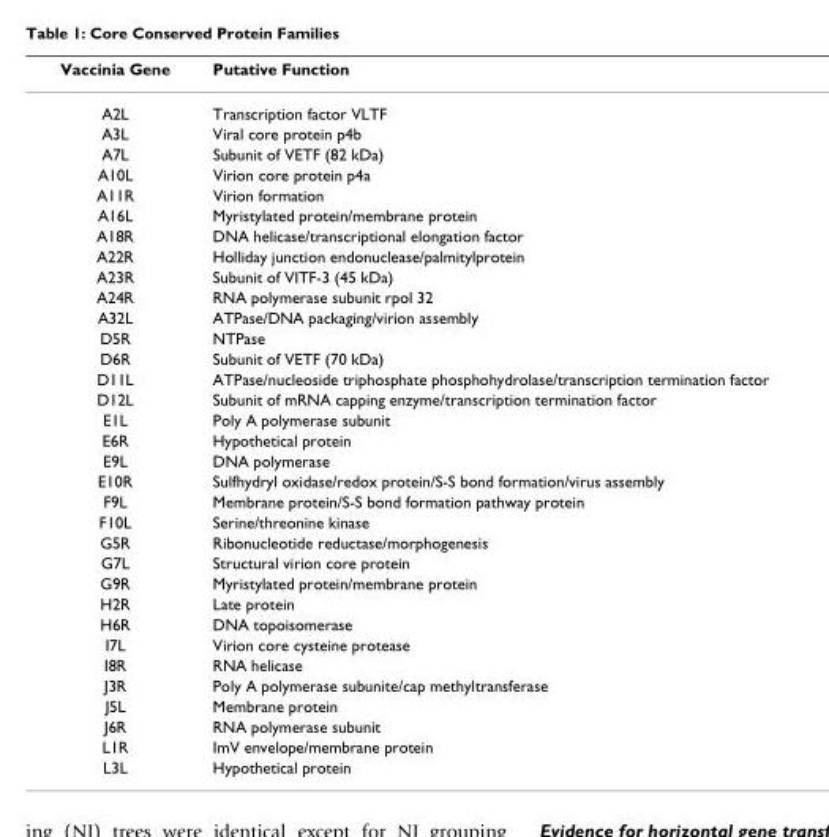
<table><thead><tr><td>Vaccinia Gene</td><td>Putative Function</td></tr></thead><tbody><tr><td>A2L</td><td>Transcription factor VLTF</td></tr><tr><td>A3L</td><td>Viral core protein p4b</td></tr><tr><td>A7L</td><td>Subunit of VETF (82 kDa)</td></tr><tr><td>A10L</td><td>Virion core protein p4a</td></tr><tr><td>A11R</td><td>Virion formation</td></tr><tr><td>A16L</td><td>Myristylated protein/membrane protein</td></tr><tr><td>A18R</td><td>DNA helicase/transcriptional elongation factor</td></tr><tr><td>A22R</td><td>Holliday junction endonuclease/palmitylprotein</td></tr><tr><td>A23R</td><td>Subunit of VITF-3 (45 kDa)</td></tr><tr><td>A24R</td><td>RNA polymerase subunit rpol 32</td></tr><tr><td>A32L</td><td>ATPase/DNA packaging/virion assembly</td></tr><tr><td>D5R</td><td>NTPase</td></tr><tr><td>D6R</td><td>Subunit of VETF (70 kDa)</td></tr><tr><td>D11L</td><td>ATPase/nucleoside triphosphate phosphohydrolase/transcription termination factor</td></tr><tr><td>D12L</td><td>Subunit of mRNA capping enzyme/transcription termination factor</td></tr><tr><td>E1L</td><td>Poly A polymerase subunit</td></tr><tr><td>E6R</td><td>Hypothetical protein</td></tr><tr><td>E9L</td><td>DNA polymerase</td></tr><tr><td>E10R</td><td>Sulfhydryl oxidase/redox protein/S-S bond formation/virus assembly</td></tr><tr><td>F9L</td><td>Membrane protein/S-S bond formation pathway protein</td></tr><tr><td>F10L</td><td>Serine/threonine kinase</td></tr><tr><td>G5R</td><td>Ribonucleotide reductase/morphogenesis</td></tr><tr><td>G7L</td><td>Structural virion core protein</td></tr><tr><td>G9R</td><td>Myristylated protein/membrane protein</td></tr><tr><td>H2R</td><td>Late protein</td></tr><tr><td>H6R</td><td>DNA topoisomerase</td></tr><tr><td>I7L</td><td>Virion core cysteine protease</td></tr><tr><td>I8R</td><td>RNA helicase</td></tr><tr><td>J3R</td><td>Poly A polymerase subunite/cap methyltransferase</td></tr><tr><td>J5L</td><td>Membrane protein</td></tr><tr><td>J6R</td><td>RNA polymerase subunit</td></tr><tr><td>L1R</td><td>ImV envelope/membrane protein</td></tr><tr><td>L3L</td><td>Hypothetical protein</td></tr></tbody></table>